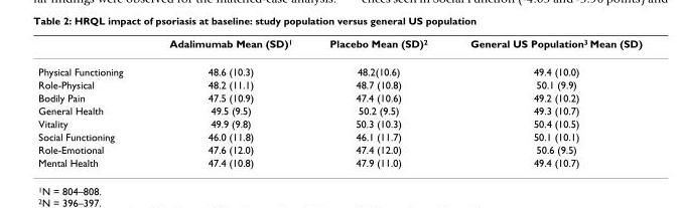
<table><thead><tr><td></td><td>Adalimumab Mean (SD)<sup>1</sup></td><td>Placebo Mean (SD)<sup>2</sup></td><td>General US Population<sup>3</sup> Mean (SD)</td></tr></thead><tbody><tr><td>Physical Functioning</td><td>48.6 (10.3)</td><td>48.2(10.6)</td><td>49.4 (10.0)</td></tr><tr><td>Role-Physical</td><td>48.2 (11.1)</td><td>48.7 (10.8)</td><td>50.1 (9.9)</td></tr><tr><td>Bodily Pain</td><td>47.5 (10.9)</td><td>47.4 (10.6)</td><td>49.2 (10.2)</td></tr><tr><td>General Health</td><td>49.5 (9.5)</td><td>50.2 (9.5)</td><td>49.3 (10.7)</td></tr><tr><td>Vitality</td><td>49.9 (9.8)</td><td>50.3 (10.3)</td><td>50.4 (10.5)</td></tr><tr><td>Social Functioning</td><td>46.0 (11.8)</td><td>46.1 (11.7)</td><td>50.1 (10.1)</td></tr><tr><td>Role-Emotional</td><td>47.6 (12.0)</td><td>47.4 (12.0)</td><td>50.6 (9.5)</td></tr><tr><td>Mental Health</td><td>47.4 (10.8)</td><td>47.9 (11.0)</td><td>49.4 (10.7)</td></tr></tbody></table>